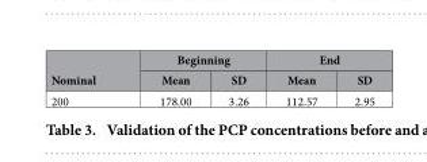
<table><thead><tr><td rowspan="2">Nominal</td><td colspan="2">Beginning</td><td colspan="2">End</td></tr><tr><td>Mean</td><td>SD</td><td>Mean</td><td>SD</td></tr></thead><tbody><tr><td>200</td><td>178.00</td><td>3.26</td><td>112.57</td><td>2.95</td></tr></tbody></table>